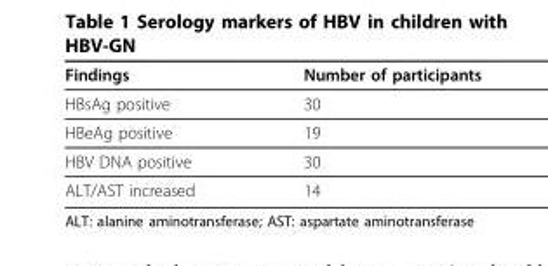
<table><thead><tr><td>Findings</td><td>Number of participants</td></tr></thead><tbody><tr><td>HBsAg positive</td><td>30</td></tr><tr><td>HBeAg positive</td><td>19</td></tr><tr><td>HBV DNA positive</td><td>30</td></tr><tr><td>ALT/AST increased</td><td>14</td></tr></tbody></table>